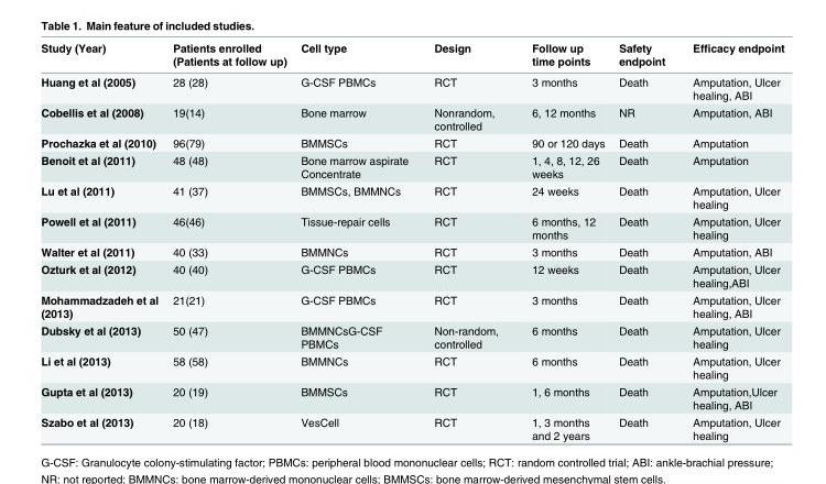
<table><thead><tr><td>Study (Year)</td><td>Patients enrolled (Patients at follow up)</td><td>Cell type</td><td>Design</td><td>Follow up time points</td><td>Safety endpoint</td><td>Efficacy endpoint</td></tr></thead><tbody><tr><td>Huang et al (2005)</td><td>28 (28)</td><td>G-CSF PBMCs</td><td>RCT</td><td>3 months</td><td>Death</td><td>Amputation, Ulcer healing, ABI</td></tr><tr><td>Cobellis et al (2008)</td><td>19(14)</td><td>Bone marrow</td><td>Nonrandom, controlled</td><td>6, 12 months</td><td>NR</td><td>Amputation, ABI</td></tr><tr><td>Prochazka et al (2010)</td><td>96(79)</td><td>BMMSCs</td><td>RCT</td><td>90 or 120 days</td><td>Death</td><td>Amputation</td></tr><tr><td>Benoit et al (2011)</td><td>48 (48)</td><td>Bone marrow aspirate Concentrate</td><td>RCT</td><td>1, 4, 8, 12, 26 weeks</td><td>Death</td><td>Amputation</td></tr><tr><td>Lu et al (2011)</td><td>41 (37)</td><td>BMMSCs, BMMNCs</td><td>RCT</td><td>24 weeks</td><td>Death</td><td>Amputation, Ulcer healing</td></tr><tr><td>Powell et al (2011)</td><td>46(46)</td><td>Tissue-repair cells</td><td>RCT</td><td>6 months, 12 months</td><td>Death</td><td>Amputation, Ulcer healing</td></tr><tr><td>Walter et al (2011)</td><td>40 (33)</td><td>BMMNCs</td><td>RCT</td><td>3 months</td><td>Death</td><td>Amputation, ABI</td></tr><tr><td>Ozturk et al (2012)</td><td>40 (40)</td><td>G-CSF PBMCs</td><td>RCT</td><td>12 weeks</td><td>Death</td><td>Amputation, Ulcer healing,ABI</td></tr><tr><td>Mohammadzadeh et al (2013)</td><td>21(21)</td><td>G-CSF PBMCs</td><td>RCT</td><td>3 months</td><td>Death</td><td>Amputation, Ulcer healing, ABI</td></tr><tr><td>Dubsky et al (2013)</td><td>50 (47)</td><td>BMMNCsG-CSF PBMCs</td><td>Non-random, controlled</td><td>6 months</td><td>Death</td><td>Amputation, Ulcer healing</td></tr><tr><td>Li et al (2013)</td><td>58 (58)</td><td>BMMNCs</td><td>RCT</td><td>6 months</td><td>Death</td><td>Amputation, Ulcer healing</td></tr><tr><td>Gupta et al (2013)</td><td>20 (19)</td><td>BMMSCs</td><td>RCT</td><td>1, 6 months</td><td>Death</td><td>Amputation,Ulcer healing, ABI</td></tr><tr><td>Szabo et al (2013)</td><td>20 (18)</td><td>VesCell</td><td>RCT</td><td>1, 3 months and 2 years</td><td>Death</td><td>Amputation, Ulcer healing</td></tr></tbody></table>